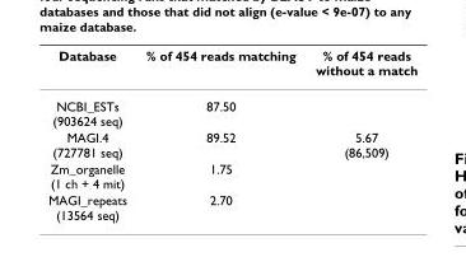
<table><thead><tr><td>Database</td><td>% of 454 reads matching</td><td>% of 454 reads without a match</td></tr></thead><tbody><tr><td>NCBI_ESTs (903624 seq)</td><td>87.50</td><td></td></tr><tr><td>MAGI.4 (727781 seq)</td><td>89.52</td><td>5.67 (86,509)</td></tr><tr><td>Zm_organelle (1 ch + 4 mit)</td><td>1.75</td><td></td></tr><tr><td>MAGI_repeats (13564 seq)</td><td>2.70</td><td></td></tr></tbody></table>